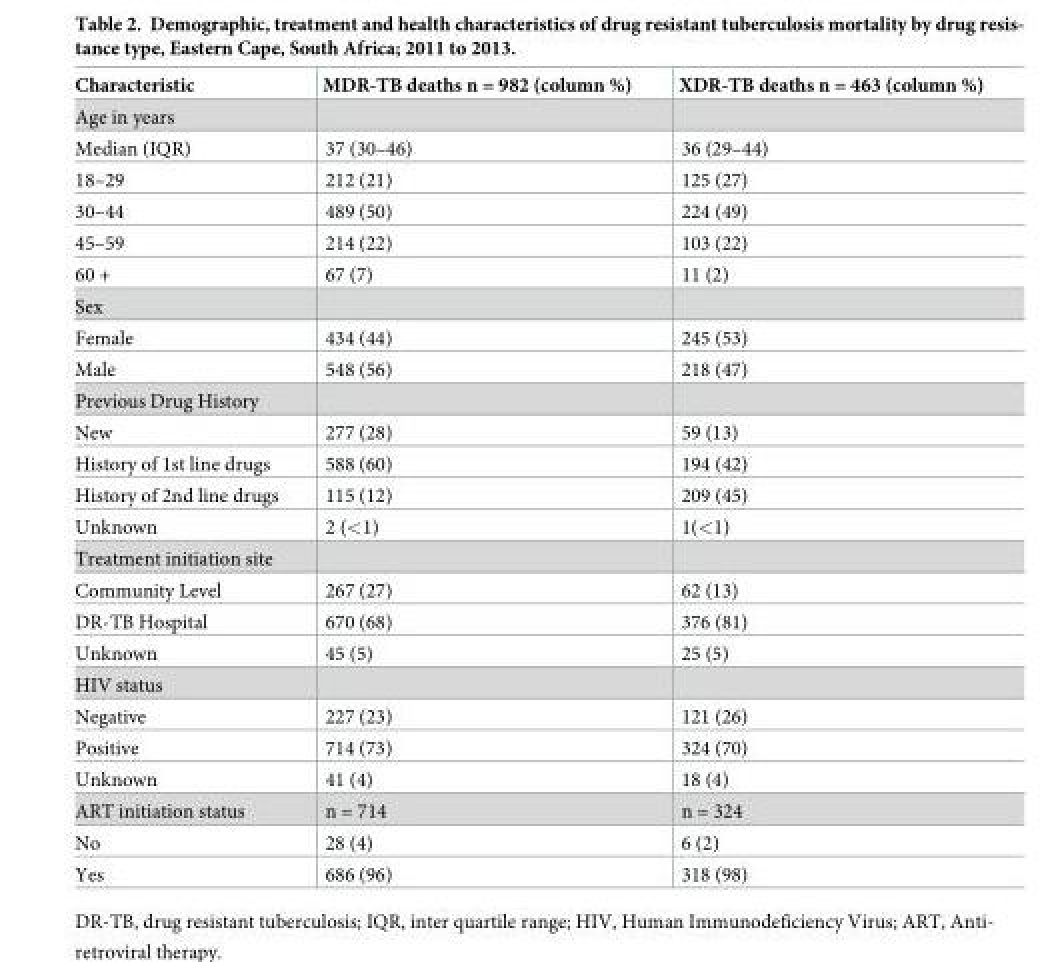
<table><thead><tr><td>Characteristic</td><td>MDR-TB deaths n = 982 (column %)</td><td>XDR-TB deaths n = 463 (column %)</td></tr></thead><tbody><tr><td colspan="3">Age in years</td></tr><tr><td>Median (IQR)</td><td>37 (30–46)</td><td>36 (29–44)</td></tr><tr><td>18–29</td><td>212 (21)</td><td>125 (27)</td></tr><tr><td>30–44</td><td>489 (50)</td><td>224 (49)</td></tr><tr><td>45–59</td><td>214 (22)</td><td>103 (22)</td></tr><tr><td>60 +</td><td>67 (7)</td><td>11 (2)</td></tr><tr><td colspan="3">Sex</td></tr><tr><td>Female</td><td>434 (44)</td><td>245 (53)</td></tr><tr><td>Male</td><td>548 (56)</td><td>218 (47)</td></tr><tr><td colspan="3">Previous Drug History</td></tr><tr><td>New</td><td>277 (28)</td><td>59 (13)</td></tr><tr><td>History of 1st line drugs</td><td>588 (60)</td><td>194 (42)</td></tr><tr><td>History of 2nd line drugs</td><td>115 (12)</td><td>209 (45)</td></tr><tr><td>Unknown</td><td>2 (&lt;1)</td><td>1(&lt;1)</td></tr><tr><td colspan="3">Treatment initiation site</td></tr><tr><td>Community Level</td><td>267 (27)</td><td>62 (13)</td></tr><tr><td>DR-TB Hospital</td><td>670 (68)</td><td>376 (81)</td></tr><tr><td>Unknown</td><td>45 (5)</td><td>25 (5)</td></tr><tr><td colspan="3">HIV status</td></tr><tr><td>Negative</td><td>227 (23)</td><td>121 (26)</td></tr><tr><td>Positive</td><td>714 (73)</td><td>324 (70)</td></tr><tr><td>Unknown</td><td>41 (4)</td><td>18 (4)</td></tr><tr><td>ART initiation status</td><td>n = 714</td><td>n = 324</td></tr><tr><td>No</td><td>28 (4)</td><td>6 (2)</td></tr><tr><td>Yes</td><td>686 (96)</td><td>318 (98)</td></tr></tbody></table>